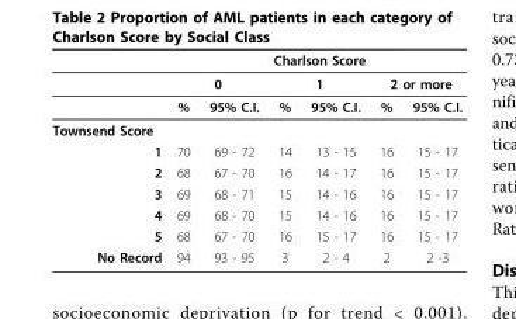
<table><thead><tr><td rowspan="3"></td><td colspan="6">Charlson Score</td></tr><tr><td colspan="2">0</td><td colspan="2">1</td><td colspan="2">2 or more</td></tr><tr><td>%</td><td>95% C.I.</td><td>%</td><td>95% C.I.</td><td>%</td><td>95% C.I.</td></tr></thead><tbody><tr><td colspan="7">Townsend Score</td></tr><tr><td>1</td><td>70</td><td>69 - 72</td><td>14</td><td>13 - 15</td><td>16</td><td>15 - 17</td></tr><tr><td>2</td><td>68</td><td>67 - 70</td><td>16</td><td>14 - 17</td><td>16</td><td>15 - 17</td></tr><tr><td>3</td><td>69</td><td>68 - 71</td><td>15</td><td>14 - 16</td><td>16</td><td>15 - 17</td></tr><tr><td>4</td><td>69</td><td>68 - 70</td><td>15</td><td>14 - 16</td><td>16</td><td>15 - 17</td></tr><tr><td>5</td><td>68</td><td>67 - 70</td><td>16</td><td>15 - 17</td><td>16</td><td>15 - 17</td></tr><tr><td>No Record</td><td>94</td><td>93 - 95</td><td>3</td><td>2 - 4</td><td>2</td><td>2 -3</td></tr></tbody></table>